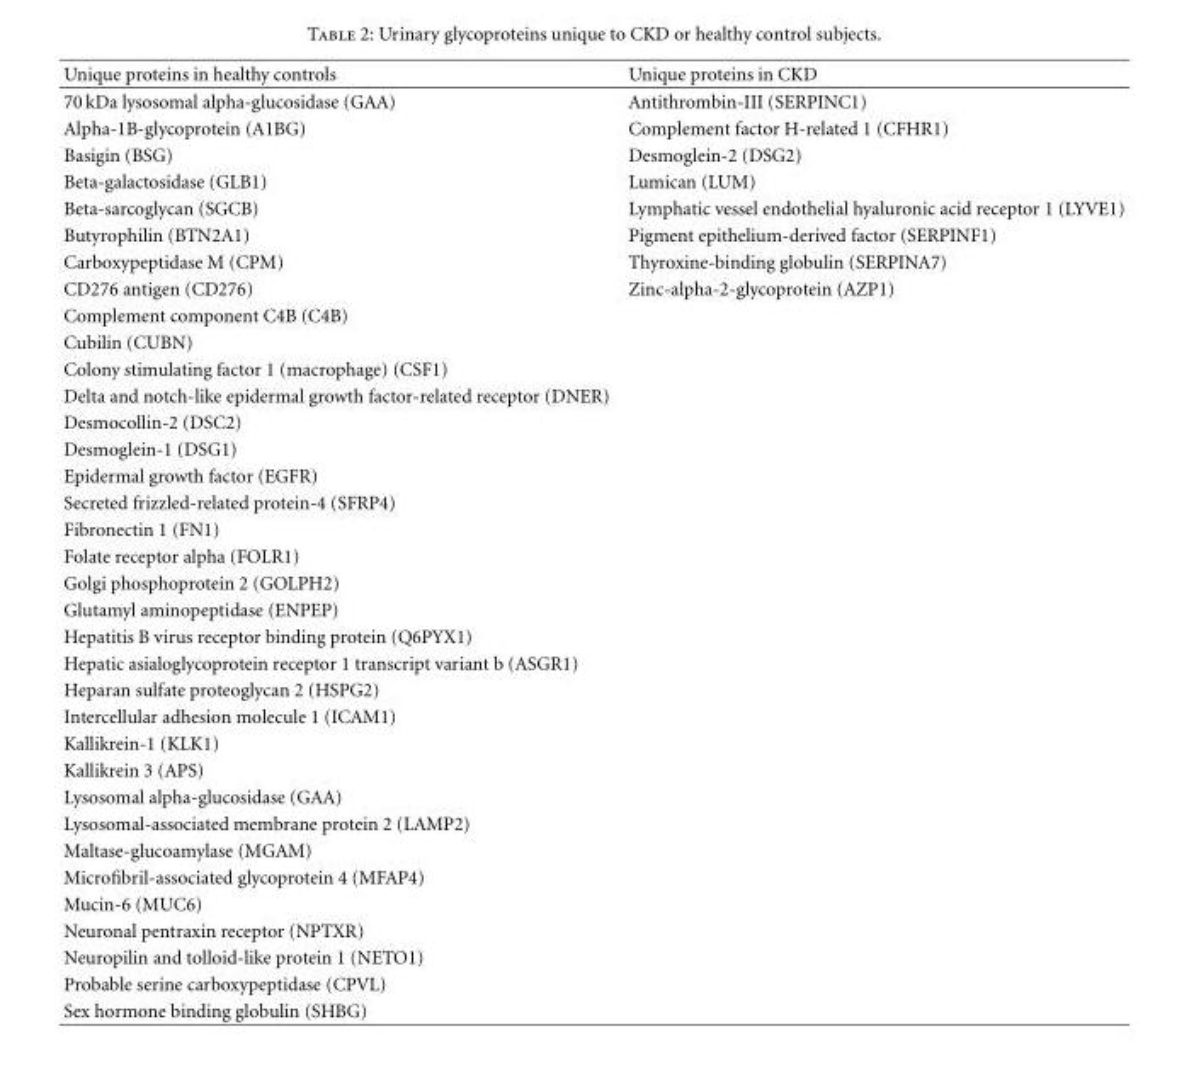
<table><thead><tr><td>Unique proteins in healthy controls</td><td>Unique proteins in CKD</td></tr></thead><tbody><tr><td>70 kDa lysosomal alpha-glucosidase (GAA)</td><td>Antithrombin-III (SERPINC1)</td></tr><tr><td>Alpha-1B-glycoprotein (A1BG)</td><td>Complement factor H-related 1 (CFHR1)</td></tr><tr><td>Basigin (BSG)</td><td>Desmoglein-2 (DSG2)</td></tr><tr><td>Beta-galactosidase (GLB1)</td><td>Lumican (LUM)</td></tr><tr><td>Beta-sarcoglycan (SGCB)</td><td>Lymphatic vessel endothelial hyaluronic acid receptor 1 (LYVE1)</td></tr><tr><td>Butyrophilin (BTN2A1)</td><td>Pigment epithelium-derived factor (SERPINF1)</td></tr><tr><td>Carboxypeptidase M (CPM)</td><td>Thyroxine-binding globulin (SERPINA7)</td></tr><tr><td>CD276 antigen (CD276)</td><td>Zinc-alpha-2-glycoprotein (AZP1)</td></tr><tr><td colspan="2">Complement component C4B (C4B)</td></tr><tr><td colspan="2">Cubilin (CUBN)</td></tr><tr><td colspan="2">Colony stimulating factor 1 (macrophage) (CSF1)</td></tr><tr><td colspan="2">Delta and notch-like epidermal growth factor-related receptor (DNER)</td></tr><tr><td colspan="2">Desmocollin-2 (DSC2)</td></tr><tr><td colspan="2">Desmoglein-1 (DSG1)</td></tr><tr><td colspan="2">Epidermal growth factor (EGFR)</td></tr><tr><td colspan="2">Secreted frizzled-related protein-4 (SFRP4)</td></tr><tr><td colspan="2">Fibronectin 1 (FN1)</td></tr><tr><td colspan="2">Folate receptor alpha (FOLR1)</td></tr><tr><td colspan="2">Golgi phosphoprotein 2 (GOLPH2)</td></tr><tr><td colspan="2">Glutamyl aminopeptidase (ENPEP)</td></tr><tr><td colspan="2">Hepatitis B virus receptor binding protein (Q6PYX1)</td></tr><tr><td colspan="2">Hepatic asialoglycoprotein receptor 1 transcript variant b (ASGR1)</td></tr><tr><td colspan="2">Heparan sulfate proteoglycan 2 (HSPG2)</td></tr><tr><td colspan="2">Intercellular adhesion molecule 1 (ICAM1)</td></tr><tr><td colspan="2">Kallikrein-1 (KLK1)</td></tr><tr><td colspan="2">Kallikrein 3 (APS)</td></tr><tr><td colspan="2">Lysosomal alpha-glucosidase (GAA)</td></tr><tr><td colspan="2">Lysosomal-associated membrane protein 2 (LAMP2)</td></tr><tr><td colspan="2">Maltase-glucoamylase (MGAM)</td></tr><tr><td colspan="2">Microfibril-associated glycoprotein 4 (MFAP4)</td></tr><tr><td colspan="2">Mucin-6 (MUC6)</td></tr><tr><td colspan="2">Neuronal pentraxin receptor (NPTXR)</td></tr><tr><td colspan="2">Neuropilin and tolloid-like protein 1 (NETO1)</td></tr><tr><td colspan="2">Probable serine carboxypeptidase (CPVL)</td></tr><tr><td>Sex hormone binding globulin (SHBG)</td><td></td></tr></tbody></table>